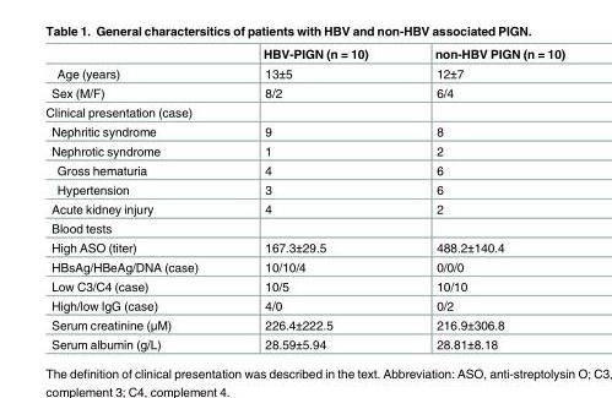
<table><thead><tr><td></td><td>HBV-PIGN (n = 10)</td><td>non-HBV PIGN (n = 10)</td></tr></thead><tbody><tr><td>Age (years)</td><td>13±5</td><td>12±7</td></tr><tr><td>Sex (M/F)</td><td>8/2</td><td>6/4</td></tr><tr><td colspan="3">Clinical presentation (case)</td></tr><tr><td>Nephritic syndrome</td><td>9</td><td>8</td></tr><tr><td>Nephrotic syndrome</td><td>1</td><td>2</td></tr><tr><td>Gross hematuria</td><td>4</td><td>6</td></tr><tr><td>Hypertension</td><td>3</td><td>6</td></tr><tr><td>Acute kidney injury</td><td>4</td><td>2</td></tr><tr><td colspan="3">Blood tests</td></tr><tr><td>High ASO (titer)</td><td>167.3±29.5</td><td>488.2±140.4</td></tr><tr><td>HBsAg/HBeAg/DNA (case)</td><td>10/10/4</td><td>0/0/0</td></tr><tr><td>Low C3/C4 (case)</td><td>10/5</td><td>10/10</td></tr><tr><td>High/low IgG (case)</td><td>4/0</td><td>0/2</td></tr><tr><td>Serum creatinine (μM)</td><td>226.4±222.5</td><td>216.9±306.8</td></tr><tr><td>Serum albumin (g/L)</td><td>28.59±5.94</td><td>28.81±8.18</td></tr></tbody></table>